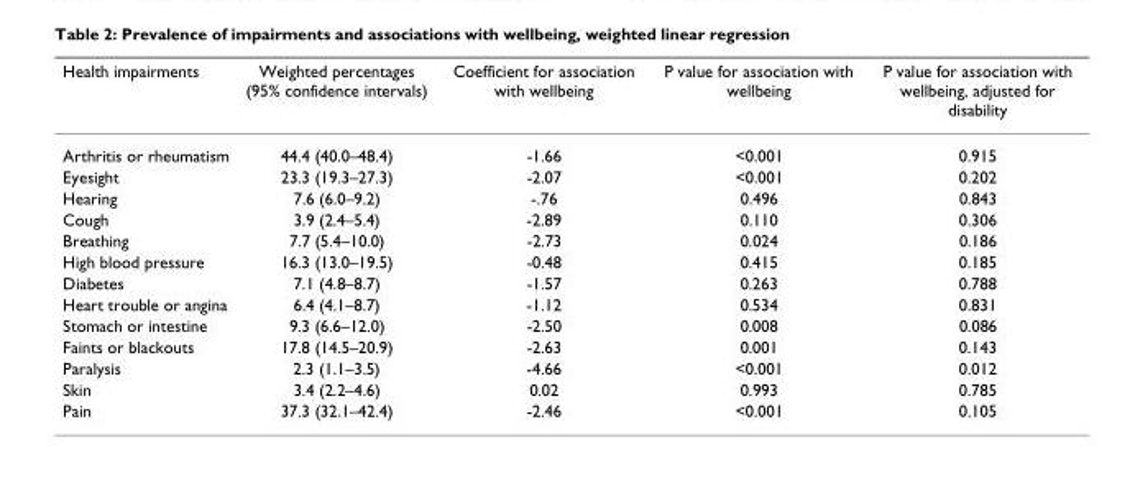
<table><thead><tr><td>Health impairments</td><td>Weighted percentages (95% confidence intervals)</td><td>Coefficient for association with wellbeing</td><td>P value for association with wellbeing</td><td>P value for association with wellbeing, adjusted for disability</td></tr></thead><tbody><tr><td>Arthritis or rheumatism</td><td>44.4 (40.0–48.4)</td><td>-1.66</td><td>&lt;0.001</td><td>0.915</td></tr><tr><td>Eyesight</td><td>23.3 (19.3–27.3)</td><td>-2.07</td><td>&lt;0.001</td><td>0.202</td></tr><tr><td>Hearing</td><td>7.6 (6.0–9.2)</td><td>-.76</td><td>0.496</td><td>0.843</td></tr><tr><td>Cough</td><td>3.9 (2.4–5.4)</td><td>-2.89</td><td>0.110</td><td>0.306</td></tr><tr><td>Breathing</td><td>7.7 (5.4–10.0)</td><td>-2.73</td><td>0.024</td><td>0.186</td></tr><tr><td>High blood pressure</td><td>16.3 (13.0–19.5)</td><td>-0.48</td><td>0.415</td><td>0.185</td></tr><tr><td>Diabetes</td><td>7.1 (4.8–8.7)</td><td>-1.57</td><td>0.263</td><td>0.788</td></tr><tr><td>Heart trouble or angina</td><td>6.4 (4.1–8.7)</td><td>-1.12</td><td>0.534</td><td>0.831</td></tr><tr><td>Stomach or intestine</td><td>9.3 (6.6–12.0)</td><td>-2.50</td><td>0.008</td><td>0.086</td></tr><tr><td>Faints or blackouts</td><td>17.8 (14.5–20.9)</td><td>-2.63</td><td>0.001</td><td>0.143</td></tr><tr><td>Paralysis</td><td>2.3 (1.1–3.5)</td><td>-4.66</td><td>&lt;0.001</td><td>0.012</td></tr><tr><td>Skin</td><td>3.4 (2.2–4.6)</td><td>0.02</td><td>0.993</td><td>0.785</td></tr><tr><td>Pain</td><td>37.3 (32.1–42.4)</td><td>-2.46</td><td>&lt;0.001</td><td>0.105</td></tr></tbody></table>